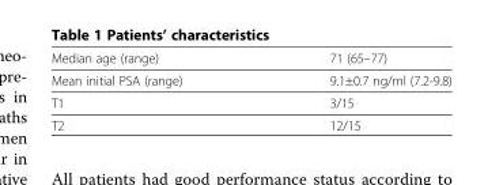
<table><tbody><tr><td>Median age (range)</td><td>71 (65–77)</td></tr><tr><td>Mean initial PSA (range)</td><td>9.1±0.7 ng/ml (7.2-9.8)</td></tr><tr><td>T1</td><td>3/15</td></tr><tr><td>T2</td><td>12/15</td></tr></tbody></table>